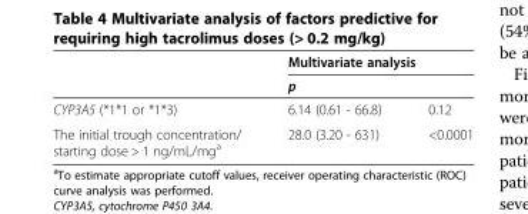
<table><thead><tr><td rowspan="3">CYP3A5 (*1*1 or *1*3)</td><td rowspan="2" colspan="2">Multivariate analysis p</td></tr><tr></tr><tr><td>6.14 (0.61 - 66.8)</td><td>0.12</td></tr></thead><tbody><tr><td>The initial trough concentration/ starting dose &gt; 1 ng/mL/mg<sup>a</sup></td><td>28.0 (3.20 - 631)</td><td>&lt;0.0001</td></tr></tbody></table>